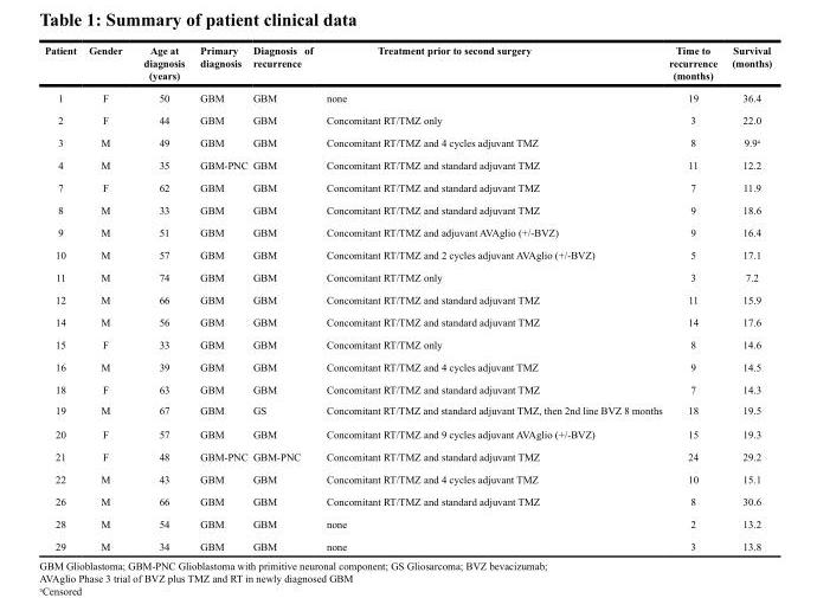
<table><thead><tr><td>Patient</td><td>Gender</td><td>Age at diagnosis (years)</td><td>Primary diagnosis</td><td>Diagnosis of recurrence</td><td>Treatment prior to second surgery</td><td>Time to recurrence (months)</td><td>Survival (months)</td></tr></thead><tbody><tr><td>1</td><td>F</td><td>50</td><td>GBM</td><td>GBM</td><td>none</td><td>19</td><td>36.4</td></tr><tr><td>2</td><td>F</td><td>44</td><td>GBM</td><td>GBM</td><td>Concomitant RT/TMZ only</td><td>3</td><td>22.0</td></tr><tr><td>3</td><td>M</td><td>49</td><td>GBM</td><td>GBM</td><td>Concomitant RT/TMZ and 4 cycles adjuvant TMZ</td><td>8</td><td>9.9<sup>a</sup></td></tr><tr><td>4</td><td>M</td><td>35</td><td>GBM-PNC</td><td>GBM</td><td>Concomitant RT/TMZ and standard adjuvant TMZ</td><td>11</td><td>12.2</td></tr><tr><td>7</td><td>F</td><td>62</td><td>GBM</td><td>GBM</td><td>Concomitant RT/TMZ and standard adjuvant TMZ</td><td>7</td><td>11.9</td></tr><tr><td>8</td><td>M</td><td>33</td><td>GBM</td><td>GBM</td><td>Concomitant RT/TMZ and standard adjuvant TMZ</td><td>9</td><td>18.6</td></tr><tr><td>9</td><td>M</td><td>51</td><td>GBM</td><td>GBM</td><td>Concomitant RT/TMZ and adjuvant AVAglio (+/-BVZ)</td><td>9</td><td>16.4</td></tr><tr><td>10</td><td>M</td><td>57</td><td>GBM</td><td>GBM</td><td>Concomitant RT/TMZ and 2 cycles adjuvant AVAglio (+/-BVZ)</td><td>5</td><td>17.1</td></tr><tr><td>11</td><td>M</td><td>74</td><td>GBM</td><td>GBM</td><td>Concomitant RT/TMZ only</td><td>3</td><td>7.2</td></tr><tr><td>12</td><td>M</td><td>66</td><td>GBM</td><td>GBM</td><td>Concomitant RT/TMZ and standard adjuvant TMZ</td><td>11</td><td>15.9</td></tr><tr><td>14</td><td>M</td><td>56</td><td>GBM</td><td>GBM</td><td>Concomitant RT/TMZ and standard adjuvant TMZ</td><td>14</td><td>17.6</td></tr><tr><td>15</td><td>F</td><td>33</td><td>GBM</td><td>GBM</td><td>Concomitant RT/TMZ only</td><td>8</td><td>14.6</td></tr><tr><td>16</td><td>M</td><td>39</td><td>GBM</td><td>GBM</td><td>Concomitant RT/TMZ and 4 cycles adjuvant TMZ</td><td>9</td><td>14.5</td></tr><tr><td>18</td><td>F</td><td>63</td><td>GBM</td><td>GBM</td><td>Concomitant RT/TMZ and standard adjuvant TMZ</td><td>7</td><td>14.3</td></tr><tr><td>19</td><td>M</td><td>67</td><td>GBM</td><td>GS</td><td>Concomitant RT/TMZ and standard adjuvant TMZ, then 2nd line BVZ 8 months</td><td>18</td><td>19.5</td></tr><tr><td>20</td><td>F</td><td>57</td><td>GBM</td><td>GBM</td><td>Concomitant RT/TMZ and 9 cycles adjuvant AVAglio (+/-BVZ)</td><td>15</td><td>19.3</td></tr><tr><td>21</td><td>F</td><td>48</td><td>GBM-PNC</td><td>GBM-PNC</td><td>Concomitant RT/TMZ and standard adjuvant TMZ</td><td>24</td><td>29.2</td></tr><tr><td>22</td><td>M</td><td>43</td><td>GBM</td><td>GBM</td><td>Concomitant RT/TMZ and 4 cycles adjuvant TMZ</td><td>10</td><td>15.1</td></tr><tr><td>26</td><td>M</td><td>66</td><td>GBM</td><td>GBM</td><td>Concomitant RT/TMZ and standard adjuvant TMZ</td><td>8</td><td>30.6</td></tr><tr><td>28</td><td>M</td><td>54</td><td>GBM</td><td>GBM</td><td>none</td><td>2</td><td>13.2</td></tr><tr><td>29</td><td>M</td><td>34</td><td>GBM</td><td>GBM</td><td>none</td><td>3</td><td>13.8</td></tr></tbody></table>